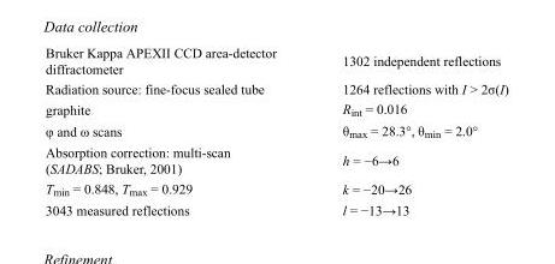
<table><tbody><tr><td>Bruker Kappa APEXII CCD area-detector diffractometer</td><td>1302 independent reflections</td></tr><tr><td>Radiation source: fine-focus sealed tube</td><td>1264 reflections with I &gt; 2σ(I)</td></tr><tr><td>graphite</td><td>R<sub>int</sub> = 0.016</td></tr><tr><td>φ and ω scans</td><td>θ<sub>max</sub> = 28.3°, θ<sub>min</sub> = 2.0°</td></tr><tr><td>Absorption correction: multi-scan (SADABS; Bruker, 2001)</td><td>h = −6→6</td></tr><tr><td>T<sub>min</sub> = 0.848, T<sub>max</sub> = 0.929</td><td>k = −20→26</td></tr><tr><td>3043 measured reflections</td><td>l = −13→13</td></tr></tbody></table>